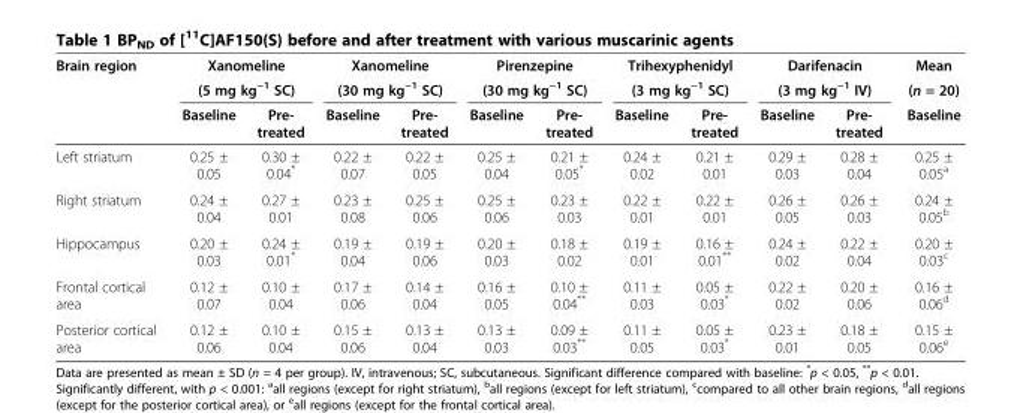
<table><thead><tr><td rowspan="3">Brain region</td><td rowspan="2" colspan="2">Xanomeline (5 mg kg<sup>−1</sup> SC)</td><td rowspan="2" colspan="2">Xanomeline (30 mg kg<sup>−1</sup> SC)</td><td rowspan="2" colspan="2">Pirenzepine (30 mg kg<sup>−1</sup> SC)</td><td rowspan="2" colspan="2">Trihexyphenidyl (3 mg kg<sup>−1</sup> SC)</td><td rowspan="2" colspan="2">Darifenacin (3 mg kg<sup>−1</sup> IV)</td><td rowspan="3">Mean (n = 20) Baseline</td></tr><tr></tr><tr><td>Baseline</td><td>Pre- treated</td><td>Baseline</td><td>Pre- treated</td><td>Baseline</td><td>Pre- treated</td><td>Baseline</td><td>Pre- treated</td><td>Baseline</td><td>Pre- treated</td></tr></thead><tbody><tr><td>Left striatum</td><td>0.25 ± 0.05</td><td>0.30 ± 0.04*</td><td>0.22 ± 0.07</td><td>0.22 ± 0.05</td><td>0.25 ± 0.04</td><td>0.21 ± 0.05*</td><td>0.24 ± 0.02</td><td>0.21 ± 0.01</td><td>0.29 ± 0.03</td><td>0.28 ± 0.04</td><td>0.25 ± 0.05<sup>a</sup></td></tr><tr><td>Right striatum</td><td>0.24 ± 0.04</td><td>0.27 ± 0.01</td><td>0.23 ± 0.08</td><td>0.25 ± 0.06</td><td>0.25 ± 0.06</td><td>0.23 ± 0.03</td><td>0.22 ± 0.01</td><td>0.22 ± 0.01</td><td>0.26 ± 0.05</td><td>0.26 ± 0.03</td><td>0.24 ± 0.05<sup>b</sup></td></tr><tr><td>Hippocampus</td><td>0.20 ± 0.03</td><td>0.24 ± 0.01*</td><td>0.19 ± 0.04</td><td>0.19 ± 0.06</td><td>0.20 ± 0.03</td><td>0.18 ± 0.02</td><td>0.19 ± 0.01</td><td>0.16 ± 0.01**</td><td>0.24 ± 0.02</td><td>0.22 ± 0.04</td><td>0.20 ± 0.03<sup>c</sup></td></tr><tr><td>Frontal cortical area</td><td>0.12 ± 0.07</td><td>0.10 ± 0.04</td><td>0.17 ± 0.06</td><td>0.14 ± 0.04</td><td>0.16 ± 0.05</td><td>0.10 ± 0.04**</td><td>0.11 ± 0.03</td><td>0.05 ± 0.03*</td><td>0.22 ± 0.02</td><td>0.20 ± 0.06</td><td>0.16 ± 0.06<sup>d</sup></td></tr><tr><td>Posterior cortical area</td><td>0.12 ± 0.06</td><td>0.10 ± 0.04</td><td>0.15 ± 0.06</td><td>0.13 ± 0.04</td><td>0.13 ± 0.03</td><td>0.09 ± 0.03**</td><td>0.11 ± 0.05</td><td>0.05 ± 0.03*</td><td>0.23 ± 0.01</td><td>0.18 ± 0.05</td><td>0.15 ± 0.06<sup>e</sup></td></tr></tbody></table>